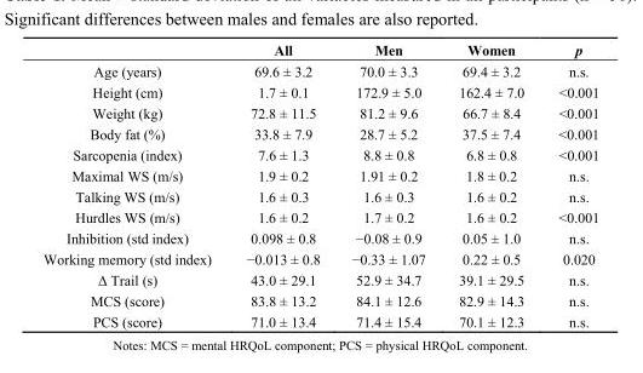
<table><thead><tr><td></td><td>All</td><td>Men</td><td>Women</td><td>p</td></tr></thead><tbody><tr><td>Age (years)</td><td>69.6 ± 3.2</td><td>70.0 ± 3.3</td><td>69.4 ± 3.2</td><td>n.s.</td></tr><tr><td>Height (cm)</td><td>1.7 ± 0.1</td><td>172.9 ± 5.0</td><td>162.4 ± 7.0</td><td>&lt;0.001</td></tr><tr><td>Weight (kg)</td><td>72.8 ± 11.5</td><td>81.2 ± 9.6</td><td>66.7 ± 8.4</td><td>&lt;0.001</td></tr><tr><td>Body fat (%)</td><td>33.8 ± 7.9</td><td>28.7 ± 5.2</td><td>37.5 ± 7.4</td><td>&lt;0.001</td></tr><tr><td>Sarcopenia (index)</td><td>7.6 ± 1.3</td><td>8.8 ± 0.8</td><td>6.8 ± 0.8</td><td>&lt;0.001</td></tr><tr><td>Maximal WS (m/s)</td><td>1.9 ± 0.2</td><td>1.91 ± 0.2</td><td>1.8 ± 0.2</td><td>n.s.</td></tr><tr><td>Talking WS (m/s)</td><td>1.6 ± 0.3</td><td>1.6 ± 0.3</td><td>1.6 ± 0.2</td><td>n.s.</td></tr><tr><td>Hurdles WS (m/s)</td><td>1.6 ± 0.2</td><td>1.7 ± 0.2</td><td>1.6 ± 0.2</td><td>&lt;0.001</td></tr><tr><td>Inhibition (std index)</td><td>0.098 ± 0.8</td><td>−0.08 ± 0.9</td><td>0.05 ± 1.0</td><td>n.s.</td></tr><tr><td>Working memory (std index)</td><td>−0.013 ± 0.8</td><td>−0.33 ± 1.07</td><td>0.22 ± 0.5</td><td>0.020</td></tr><tr><td>Δ Trail (s)</td><td>43.0 ± 29.1</td><td>52.9 ± 34.7</td><td>39.1 ± 29.5</td><td>n.s.</td></tr><tr><td>MCS (score)</td><td>83.8 ± 13.2</td><td>84.1 ± 12.6</td><td>82.9 ± 14.3</td><td>n.s.</td></tr><tr><td>PCS (score)</td><td>71.0 ± 13.4</td><td>71.4 ± 15.4</td><td>70.1 ± 12.3</td><td>n.s.</td></tr></tbody></table>